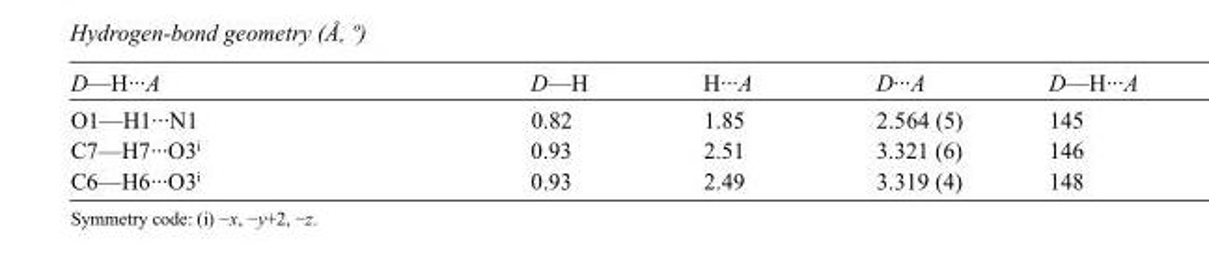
<table><tbody><tr><td>D—H···A</td><td>D—H</td><td>H···A</td><td>D···A</td><td>D—H···A</td></tr><tr><td>O1—H1···N1</td><td>0.82</td><td>1.85</td><td>2.564 (5)</td><td>145</td></tr><tr><td>C7—H7···O3<sup>i</sup></td><td>0.93</td><td>2.51</td><td>3.321 (6)</td><td>146</td></tr><tr><td>C6—H6···O3<sup>i</sup></td><td>0.93</td><td>2.49</td><td>3.319 (4)</td><td>148</td></tr></tbody></table>